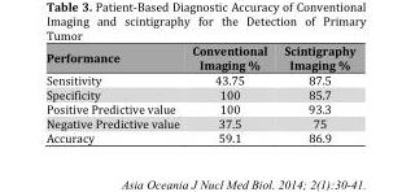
<table><thead><tr><td>Performance</td><td>Conventional Imaging %</td><td>Scintigraphy Imaging %</td></tr></thead><tbody><tr><td>Sensitivity</td><td>43.75</td><td>87.5</td></tr><tr><td>Specificity</td><td>100</td><td>85.7</td></tr><tr><td>Positive Predictive value</td><td>100</td><td>93.3</td></tr><tr><td>Negative Predictive value</td><td>37.5</td><td>75</td></tr><tr><td>Accuracy</td><td>59.1</td><td>86.9</td></tr></tbody></table>